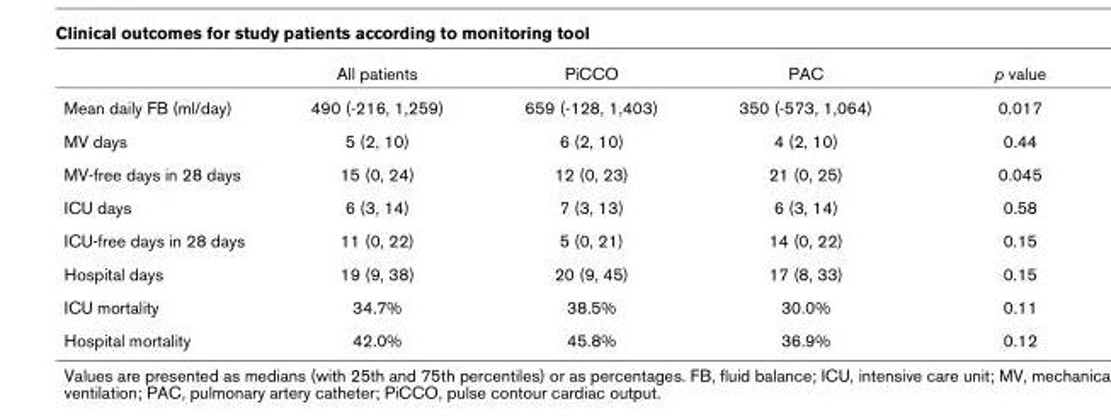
<table><thead><tr><td></td><td>All patients</td><td>PiCCO</td><td>PAC</td><td>p value</td></tr></thead><tbody><tr><td>Mean daily FB (ml/day)</td><td>490 (-216, 1,259)</td><td>659 (-128, 1,403)</td><td>350 (-573, 1,064)</td><td>0.017</td></tr><tr><td>MV days</td><td>5 (2, 10)</td><td>6 (2, 10)</td><td>4 (2, 10)</td><td>0.44</td></tr><tr><td>MV-free days in 28 days</td><td>15 (0, 24)</td><td>12 (0, 23)</td><td>21 (0, 25)</td><td>0.045</td></tr><tr><td>ICU days</td><td>6 (3, 14)</td><td>7 (3, 13)</td><td>6 (3, 14)</td><td>0.58</td></tr><tr><td>ICU-free days in 28 days</td><td>11 (0, 22)</td><td>5 (0, 21)</td><td>14 (0, 22)</td><td>0.15</td></tr><tr><td>Hospital days</td><td>19 (9, 38)</td><td>20 (9, 45)</td><td>17 (8, 33)</td><td>0.15</td></tr><tr><td>ICU mortality</td><td>34.7%</td><td>38.5%</td><td>30.0%</td><td>0.11</td></tr><tr><td>Hospital mortality</td><td>42.0%</td><td>45.8%</td><td>36.9%</td><td>0.12</td></tr></tbody></table>